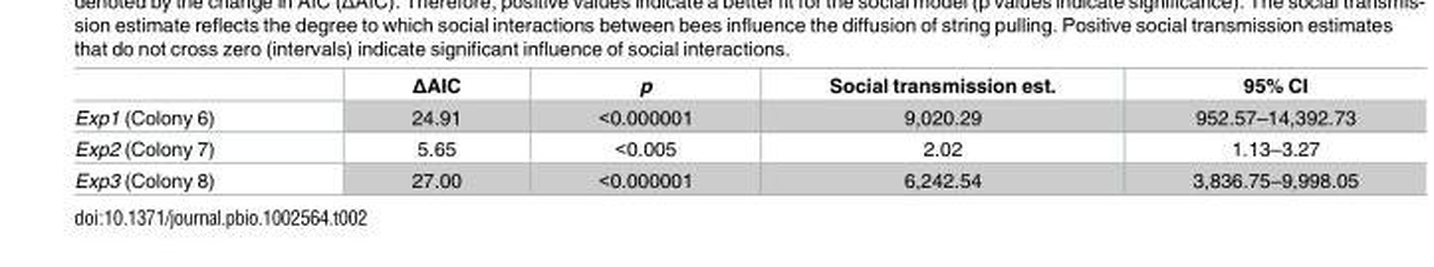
<table><thead><tr><td></td><td>ΔAIC</td><td>p</td><td>Social transmission est.</td><td>95% CI</td></tr></thead><tbody><tr><td>Exp1 (Colony 6)</td><td>24.91</td><td>&lt;0.000001</td><td>9,020.29</td><td>952.57–14,392.73</td></tr><tr><td>Exp2 (Colony 7)</td><td>5.65</td><td>&lt;0.005</td><td>2.02</td><td>1.13–3.27</td></tr><tr><td>Exp3 (Colony 8)</td><td>27.00</td><td>&lt;0.000001</td><td>6,242.54</td><td>3,836.75–9,998.05</td></tr></tbody></table>